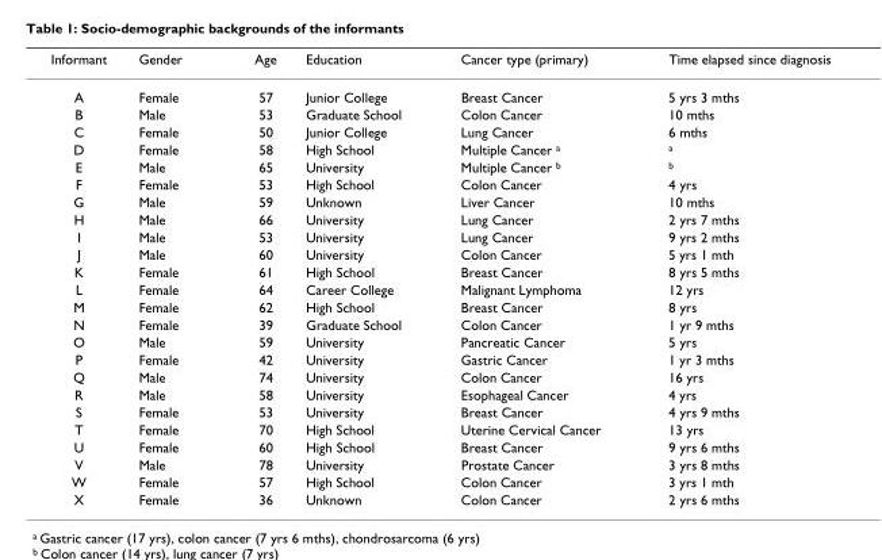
<table><thead><tr><td>Informant</td><td>Gender</td><td>Age</td><td>Education</td><td>Cancer type (primary)</td><td>Time elapsed since diagnosis</td></tr></thead><tbody><tr><td>A</td><td>Female</td><td>57</td><td>Junior College</td><td>Breast Cancer</td><td>5 yrs 3 mths</td></tr><tr><td>B</td><td>Male</td><td>53</td><td>Graduate School</td><td>Colon Cancer</td><td>10 mths</td></tr><tr><td>C</td><td>Female</td><td>50</td><td>Junior College</td><td>Lung Cancer</td><td>6 mths</td></tr><tr><td>D</td><td>Female</td><td>58</td><td>High School</td><td>Multiple Cancer <sup>a</sup></td><td><sup>a</sup></td></tr><tr><td>E</td><td>Male</td><td>65</td><td>University</td><td>Multiple Cancer <sup>b</sup></td><td><sup>b</sup></td></tr><tr><td>F</td><td>Female</td><td>53</td><td>High School</td><td>Colon Cancer</td><td>4 yrs</td></tr><tr><td>G</td><td>Male</td><td>59</td><td>Unknown</td><td>Liver Cancer</td><td>10 mths</td></tr><tr><td>H</td><td>Male</td><td>66</td><td>University</td><td>Lung Cancer</td><td>2 yrs 7 mths</td></tr><tr><td>I</td><td>Male</td><td>53</td><td>University</td><td>Lung Cancer</td><td>9 yrs 2 mths</td></tr><tr><td>J</td><td>Male</td><td>60</td><td>University</td><td>Colon Cancer</td><td>5 yrs 1 mth</td></tr><tr><td>K</td><td>Female</td><td>61</td><td>High School</td><td>Breast Cancer</td><td>8 yrs 5 mths</td></tr><tr><td>L</td><td>Female</td><td>64</td><td>Career College</td><td>Malignant Lymphoma</td><td>12 yrs</td></tr><tr><td>M</td><td>Female</td><td>62</td><td>High School</td><td>Breast Cancer</td><td>8 yrs</td></tr><tr><td>N</td><td>Female</td><td>39</td><td>Graduate School</td><td>Colon Cancer</td><td>1 yr 9 mths</td></tr><tr><td>O</td><td>Male</td><td>59</td><td>University</td><td>Pancreatic Cancer</td><td>5 yrs</td></tr><tr><td>P</td><td>Female</td><td>42</td><td>University</td><td>Gastric Cancer</td><td>1 yr 3 mths</td></tr><tr><td>Q</td><td>Male</td><td>74</td><td>University</td><td>Colon Cancer</td><td>16 yrs</td></tr><tr><td>R</td><td>Male</td><td>58</td><td>University</td><td>Esophageal Cancer</td><td>4 yrs</td></tr><tr><td>S</td><td>Female</td><td>53</td><td>University</td><td>Breast Cancer</td><td>4 yrs 9 mths</td></tr><tr><td>T</td><td>Female</td><td>70</td><td>High School</td><td>Uterine Cervical Cancer</td><td>13 yrs</td></tr><tr><td>U</td><td>Female</td><td>60</td><td>High School</td><td>Breast Cancer</td><td>9 yrs 6 mths</td></tr><tr><td>V</td><td>Male</td><td>78</td><td>University</td><td>Prostate Cancer</td><td>3 yrs 8 mths</td></tr><tr><td>W</td><td>Female</td><td>57</td><td>High School</td><td>Colon Cancer</td><td>3 yrs 1 mth</td></tr><tr><td>X</td><td>Female</td><td>36</td><td>Unknown</td><td>Colon Cancer</td><td>2 yrs 6 mths</td></tr></tbody></table>